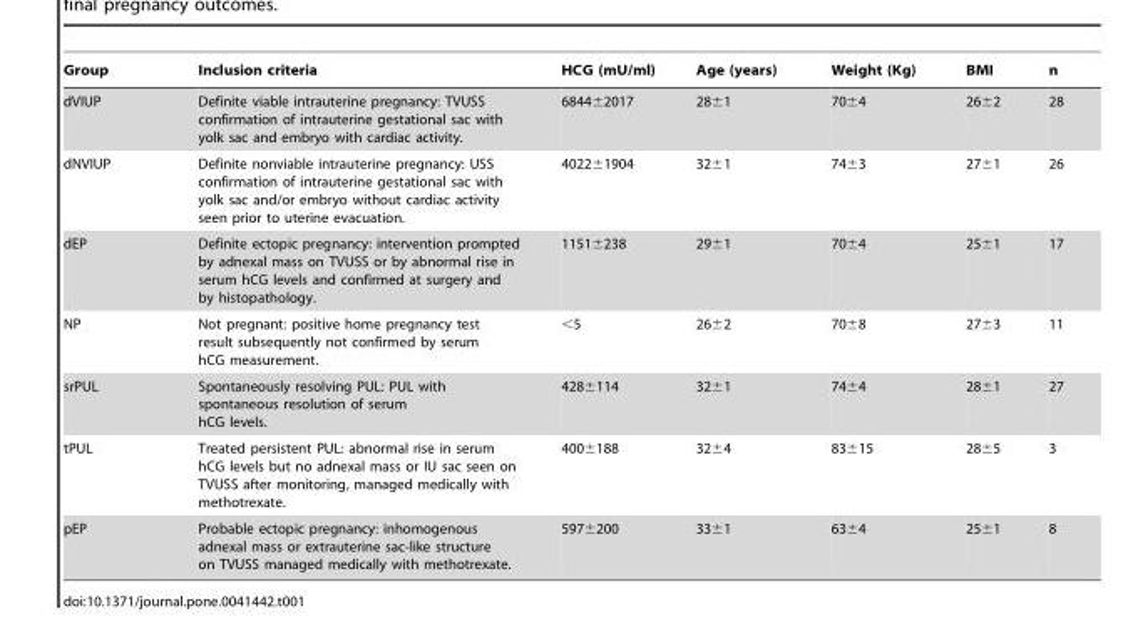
<table><thead><tr><td>Group</td><td>Inclusion criteria</td><td>HCG (mU/ml)</td><td>Age (years)</td><td>Weight (Kg)</td><td>BMI</td><td>n</td></tr></thead><tbody><tr><td>dVIUP</td><td>Definite viable intrauterine pregnancy: TVUSS confirmation of intrauterine gestational sac with yolk sac and embryo with cardiac activity.</td><td>6844±2017</td><td>28±1</td><td>70±4</td><td>26±2</td><td>28</td></tr><tr><td>dNVIUP</td><td>Definite nonviable intrauterine pregnancy: USS confirmation of intrauterine gestational sac with yolk sac and/or embryo without cardiac activity seen prior to uterine evacuation.</td><td>4022±1904</td><td>32±1</td><td>74±3</td><td>27±1</td><td>26</td></tr><tr><td>dEP</td><td>Definite ectopic pregnancy: intervention prompted by adnexal mass on TVUSS or by abnormal rise in serum hCG levels and confirmed at surgery and by histopathology.</td><td>1151±238</td><td>29±1</td><td>70±4</td><td>25±1</td><td>17</td></tr><tr><td>NP</td><td>Not pregnant: positive home pregnancy test result subsequently not confirmed by serum hCG measurement.</td><td>&lt;5</td><td>26±2</td><td>70±8</td><td>27±3</td><td>11</td></tr><tr><td>srPUL</td><td>Spontaneously resolving PUL: PUL with spontaneous resolution of serum hCG levels.</td><td>428±114</td><td>32±1</td><td>74±4</td><td>28±1</td><td>27</td></tr><tr><td>tPUL</td><td>Treated persistent PUL: abnormal rise in serum hCG levels but no adnexal mass or IU sac seen on TVUSS after monitoring, managed medically with methotrexate.</td><td>400±188</td><td>32±4</td><td>83±15</td><td>28±5</td><td>3</td></tr><tr><td>pEP</td><td>Probable ectopic pregnancy: inhomogenous adnexal mass or extrauterine sac-like structure on TVUSS managed medically with methotrexate.</td><td>597±200</td><td>33±1</td><td>63±4</td><td>25±1</td><td>8</td></tr></tbody></table>